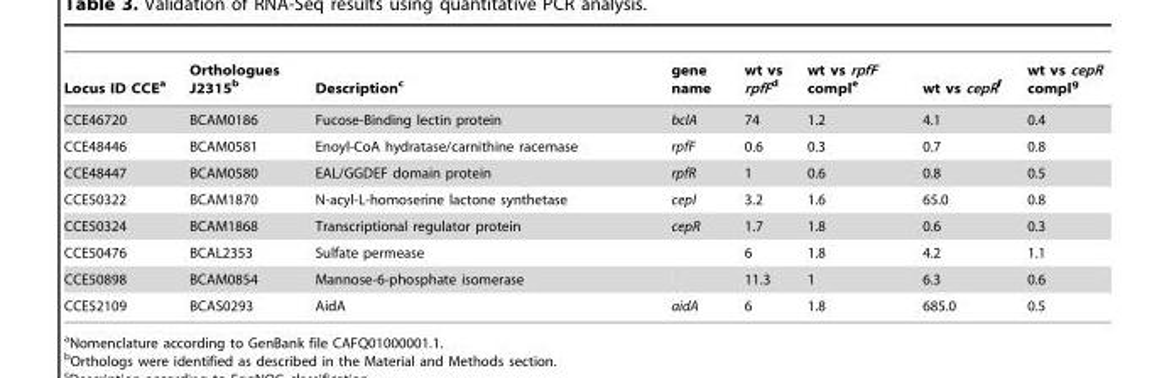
<table><thead><tr><td>Locus ID CCE<sup>a</sup></td><td>Orthologues J2315<sup>b</sup></td><td>Description<sup>c</sup></td><td>gene name</td><td>wt vs rpfFd</td><td>wt vs rpfF compl<sup>e</sup></td><td>wt vs cepRf</td><td>wt vs cepR compl<sup>g</sup></td></tr></thead><tbody><tr><td>CCE46720</td><td>BCAM0186</td><td>Fucose-Binding lectin protein</td><td>bclA</td><td>74</td><td>1.2</td><td>4.1</td><td>0.4</td></tr><tr><td>CCE48446</td><td>BCAM0581</td><td>Enoyl-CoA hydratase/carnithine racemase</td><td>rpfF</td><td>0.6</td><td>0.3</td><td>0.7</td><td>0.8</td></tr><tr><td>CCE48447</td><td>BCAM0580</td><td>EAL/GGDEF domain protein</td><td>rpfR</td><td>1</td><td>0.6</td><td>0.8</td><td>0.5</td></tr><tr><td>CCE50322</td><td>BCAM1870</td><td>N-acyl-L-homoserine lactone synthetase</td><td>cepI</td><td>3.2</td><td>1.6</td><td>65.0</td><td>0.8</td></tr><tr><td>CCE50324</td><td>BCAM1868</td><td>Transcriptional regulator protein</td><td>cepR</td><td>1.7</td><td>1.8</td><td>0.6</td><td>0.3</td></tr><tr><td>CCE50476</td><td>BCAL2353</td><td>Sulfate permease</td><td></td><td>6</td><td>1.8</td><td>4.2</td><td>1.1</td></tr><tr><td>CCE50898</td><td>BCAM0854</td><td>Mannose-6-phosphate isomerase</td><td></td><td>11.3</td><td>1</td><td>6.3</td><td>0.6</td></tr><tr><td>CCE52109</td><td>BCAS0293</td><td>AidA</td><td>aidA</td><td>6</td><td>1.8</td><td>685.0</td><td>0.5</td></tr></tbody></table>